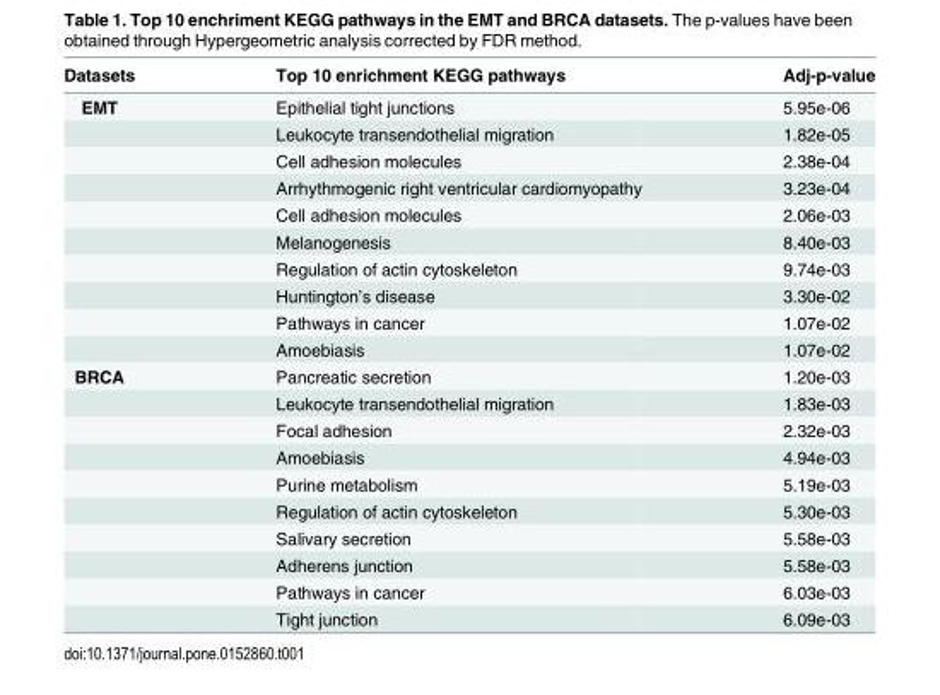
<table><thead><tr><td>Datasets</td><td>Top 10 enrichment KEGG pathways</td><td>Adj-p-value</td></tr></thead><tbody><tr><td rowspan="10">EMT</td><td>Epithelial tight junctions</td><td>5.95e-06</td></tr><tr><td>Leukocyte transendothelial migration</td><td>1.82e-05</td></tr><tr><td>Cell adhesion molecules</td><td>2.38e-04</td></tr><tr><td>Arrhythmogenic right ventricular cardiomyopathy</td><td>3.23e-04</td></tr><tr><td>Cell adhesion molecules</td><td>2.06e-03</td></tr><tr><td>Melanogenesis</td><td>8.40e-03</td></tr><tr><td>Regulation of actin cytoskeleton</td><td>9.74e-03</td></tr><tr><td>Huntington’s disease</td><td>3.30e-02</td></tr><tr><td>Pathways in cancer</td><td>1.07e-02</td></tr><tr><td>Amoebiasis</td><td>1.07e-02</td></tr><tr><td rowspan="10">BRCA</td><td>Pancreatic secretion</td><td>1.20e-03</td></tr><tr><td>Leukocyte transendothelial migration</td><td>1.83e-03</td></tr><tr><td>Focal adhesion</td><td>2.32e-03</td></tr><tr><td>Amoebiasis</td><td>4.94e-03</td></tr><tr><td>Purine metabolism</td><td>5.19e-03</td></tr><tr><td>Regulation of actin cytoskeleton</td><td>5.30e-03</td></tr><tr><td>Salivary secretion</td><td>5.58e-03</td></tr><tr><td>Adherens junction</td><td>5.58e-03</td></tr><tr><td>Pathways in cancer</td><td>6.03e-03</td></tr><tr><td>Tight junction</td><td>6.09e-03</td></tr></tbody></table>